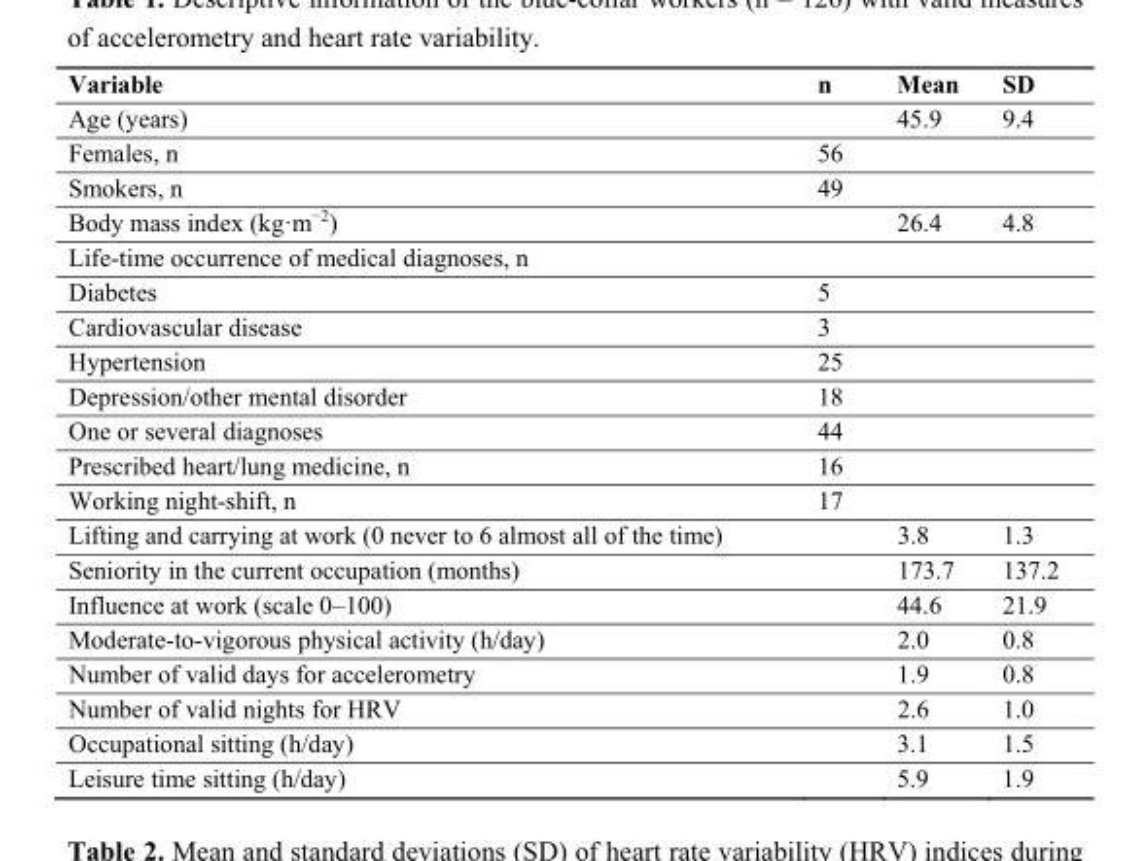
<table><thead><tr><td>Variable</td><td>n</td><td>Mean</td><td>SD</td></tr></thead><tbody><tr><td>Age (years)</td><td></td><td>45.9</td><td>9.4</td></tr><tr><td>Females, n</td><td>56</td><td></td><td></td></tr><tr><td>Smokers, n</td><td>49</td><td></td><td></td></tr><tr><td>Body mass index (kg·m<sup>−2</sup>)</td><td></td><td>26.4</td><td>4.8</td></tr><tr><td colspan="4">Life-time occurrence of medical diagnoses, n</td></tr><tr><td>Diabetes</td><td>5</td><td></td><td></td></tr><tr><td>Cardiovascular disease</td><td>3</td><td></td><td></td></tr><tr><td>Hypertension</td><td>25</td><td></td><td></td></tr><tr><td>Depression/other mental disorder</td><td>18</td><td></td><td></td></tr><tr><td>One or several diagnoses</td><td>44</td><td></td><td></td></tr><tr><td>Prescribed heart/lung medicine, n</td><td>16</td><td></td><td></td></tr><tr><td>Working night-shift, n</td><td>17</td><td></td><td></td></tr><tr><td>Lifting and carrying at work (0 never to 6 almost all of the time)</td><td></td><td>3.8</td><td>1.3</td></tr><tr><td>Seniority in the current occupation (months)</td><td></td><td>173.7</td><td>137.2</td></tr><tr><td>Influence at work (scale 0–100)</td><td></td><td>44.6</td><td>21.9</td></tr><tr><td>Moderate-to-vigorous physical activity (h/day)</td><td></td><td>2.0</td><td>0.8</td></tr><tr><td>Number of valid days for accelerometry</td><td></td><td>1.9</td><td>0.8</td></tr><tr><td>Number of valid nights for HRV</td><td></td><td>2.6</td><td>1.0</td></tr><tr><td>Occupational sitting (h/day)</td><td></td><td>3.1</td><td>1.5</td></tr><tr><td>Leisure time sitting (h/day)</td><td></td><td>5.9</td><td>1.9</td></tr></tbody></table>